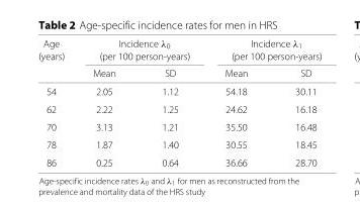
<table><thead><tr><td rowspan="3">Age (years)</td><td rowspan="2" colspan="2">Incidence λ<sub>0</sub> (per 100 person-years)</td><td rowspan="2" colspan="2">Incidence λ<sub>1</sub> (per 100 person-years)</td></tr><tr></tr><tr><td>Mean</td><td>SD</td><td>Mean</td><td>SD</td></tr></thead><tbody><tr><td>54</td><td>2.05</td><td>1.12</td><td>54.18</td><td>30.11</td></tr><tr><td>62</td><td>2.22</td><td>1.25</td><td>24.62</td><td>16.18</td></tr><tr><td>70</td><td>3.13</td><td>1.21</td><td>35.50</td><td>16.48</td></tr><tr><td>78</td><td>1.87</td><td>1.40</td><td>30.55</td><td>18.45</td></tr><tr><td>86</td><td>0.25</td><td>0.64</td><td>36.66</td><td>28.70</td></tr></tbody></table>